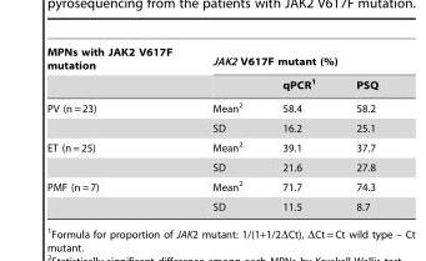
<table><thead><tr><td rowspan="2">MPNs with JAK2 V617F mutation</td><td colspan="3">JAK2 V617F mutant (%)</td></tr><tr><td></td><td>qPCR<sup>1</sup></td><td>PSQ</td></tr></thead><tbody><tr><td rowspan="2">PV (n = 23)</td><td>Mean<sup>2</sup></td><td>58.4</td><td>58.2</td></tr><tr><td>SD</td><td>16.2</td><td>25.1</td></tr><tr><td rowspan="2">ET (n = 25)</td><td>Mean<sup>2</sup></td><td>39.1</td><td>37.7</td></tr><tr><td>SD</td><td>21.6</td><td>27.8</td></tr><tr><td rowspan="2">PMF (n = 7)</td><td>Mean<sup>2</sup></td><td>71.7</td><td>74.3</td></tr><tr><td>SD</td><td>11.5</td><td>8.7</td></tr></tbody></table>